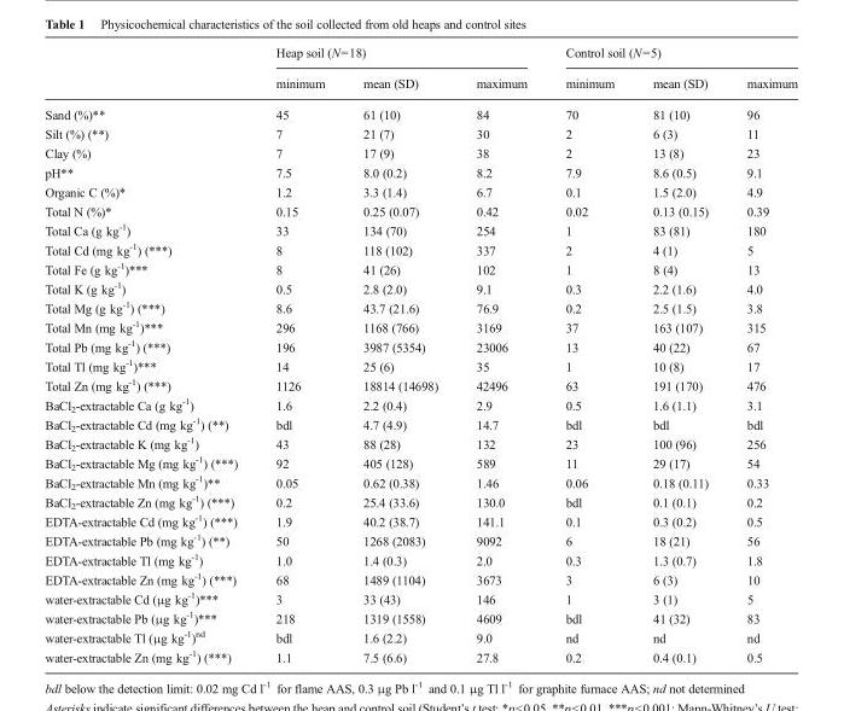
<table><thead><tr><td rowspan="2"></td><td colspan="3">Heap soil (N=18)</td><td colspan="3">Control soil (N=5)</td></tr><tr><td>minimum</td><td>mean (SD)</td><td>maximum</td><td>minimum</td><td>mean (SD)</td><td>maximum</td></tr></thead><tbody><tr><td>Sand (%)**</td><td>45</td><td>61 (10)</td><td>84</td><td>70</td><td>81 (10)</td><td>96</td></tr><tr><td>Silt (%) (**)</td><td>7</td><td>21 (7)</td><td>30</td><td>2</td><td>6 (3)</td><td>11</td></tr><tr><td>Clay (%)</td><td>7</td><td>17 (9)</td><td>38</td><td>2</td><td>13 (8)</td><td>23</td></tr><tr><td>pH**</td><td>7.5</td><td>8.0 (0.2)</td><td>8.2</td><td>7.9</td><td>8.6 (0.5)</td><td>9.1</td></tr><tr><td>Organic C (%)*</td><td>1.2</td><td>3.3 (1.4)</td><td>6.7</td><td>0.1</td><td>1.5 (2.0)</td><td>4.9</td></tr><tr><td>Total N (%)*</td><td>0.15</td><td>0.25 (0.07)</td><td>0.42</td><td>0.02</td><td>0.13 (0.15)</td><td>0.39</td></tr><tr><td>Total Ca (g kg<sup>-1</sup>)</td><td>33</td><td>134 (70)</td><td>254</td><td>1</td><td>83 (81)</td><td>180</td></tr><tr><td>Total Cd (mg kg<sup>-1</sup>) (***)</td><td>8</td><td>118 (102)</td><td>337</td><td>2</td><td>4 (1)</td><td>5</td></tr><tr><td>Total Fe (g kg<sup>-1</sup>)***</td><td>8</td><td>41 (26)</td><td>102</td><td>1</td><td>8 (4)</td><td>13</td></tr><tr><td>Total K (g kg<sup>-1</sup>)</td><td>0.5</td><td>2.8 (2.0)</td><td>9.1</td><td>0.3</td><td>2.2 (1.6)</td><td>4.0</td></tr><tr><td>Total Mg (g kg<sup>-1</sup>) (***)</td><td>8.6</td><td>43.7 (21.6)</td><td>76.9</td><td>0.2</td><td>2.5 (1.5)</td><td>3.8</td></tr><tr><td>Total Mn (mg kg<sup>-1</sup>)***</td><td>296</td><td>1168 (766)</td><td>3169</td><td>37</td><td>163 (107)</td><td>315</td></tr><tr><td>Total Pb (mg kg<sup>-1</sup>) (***)</td><td>196</td><td>3987 (5354)</td><td>23006</td><td>13</td><td>40 (22)</td><td>67</td></tr><tr><td>Total Tl (mg kg<sup>-1</sup>)***</td><td>14</td><td>25 (6)</td><td>35</td><td>1</td><td>10 (8)</td><td>17</td></tr><tr><td>Total Zn (mg kg<sup>-1</sup>) (***)</td><td>1126</td><td>18814 (14698)</td><td>42496</td><td>63</td><td>191 (170)</td><td>476</td></tr><tr><td>BaCl<sub>2</sub>-extractable Ca (g kg<sup>-1</sup>)</td><td>1.6</td><td>2.2 (0.4)</td><td>2.9</td><td>0.5</td><td>1.6 (1.1)</td><td>3.1</td></tr><tr><td>BaCl<sub>2</sub>-extractable Cd (mg kg<sup>-1</sup>) (**)</td><td>bdl</td><td>4.7 (4.9)</td><td>14.7</td><td>bdl</td><td>bdl</td><td>bdl</td></tr><tr><td>BaCl<sub>2</sub>-extractable K (mg kg<sup>-1</sup>)</td><td>43</td><td>88 (28)</td><td>132</td><td>23</td><td>100 (96)</td><td>256</td></tr><tr><td>BaCl<sub>2</sub>-extractable Mg (mg kg<sup>-1</sup>) (***)</td><td>92</td><td>405 (128)</td><td>589</td><td>11</td><td>29 (17)</td><td>54</td></tr><tr><td>BaCl<sub>2</sub>-extractable Mn (mg kg<sup>-1</sup>)**</td><td>0.05</td><td>0.62 (0.38)</td><td>1.46</td><td>0.06</td><td>0.18 (0.11)</td><td>0.33</td></tr><tr><td>BaCl<sub>2</sub>-extractable Zn (mg kg<sup>-1</sup>) (***)</td><td>0.2</td><td>25.4 (33.6)</td><td>130.0</td><td>bdl</td><td>0.1 (0.1)</td><td>0.2</td></tr><tr><td>EDTA-extractable Cd (mg kg<sup>-1</sup>) (***)</td><td>1.9</td><td>40.2 (38.7)</td><td>141.1</td><td>0.1</td><td>0.3 (0.2)</td><td>0.5</td></tr><tr><td>EDTA-extractable Pb (mg kg<sup>-1</sup>) (**)</td><td>50</td><td>1268 (2083)</td><td>9092</td><td>6</td><td>18 (21)</td><td>56</td></tr><tr><td>EDTA-extractable Tl (mg kg<sup>-1</sup>)</td><td>1.0</td><td>1.4 (0.3)</td><td>2.0</td><td>0.3</td><td>1.3 (0.7)</td><td>1.8</td></tr><tr><td>EDTA-extractable Zn (mg kg<sup>-1</sup>) (***)</td><td>68</td><td>1489 (1104)</td><td>3673</td><td>3</td><td>6 (3)</td><td>10</td></tr><tr><td>water-extractable Cd (μg kg<sup>-1</sup>)***</td><td>3</td><td>33 (43)</td><td>146</td><td>1</td><td>3 (1)</td><td>5</td></tr><tr><td>water-extractable Pb (μg kg<sup>-1</sup>)***</td><td>218</td><td>1319 (1558)</td><td>4609</td><td>bdl</td><td>41 (32)</td><td>83</td></tr><tr><td>water-extractable Tl (μg kg<sup>-1</sup>)<sup>nd</sup></td><td>bdl</td><td>1.6 (2.2)</td><td>9.0</td><td>nd</td><td>nd</td><td>nd</td></tr><tr><td>water-extractable Zn (mg kg<sup>-1</sup>) (***)</td><td>1.1</td><td>7.5 (6.6)</td><td>27.8</td><td>0.2</td><td>0.4 (0.1)</td><td>0.5</td></tr></tbody></table>